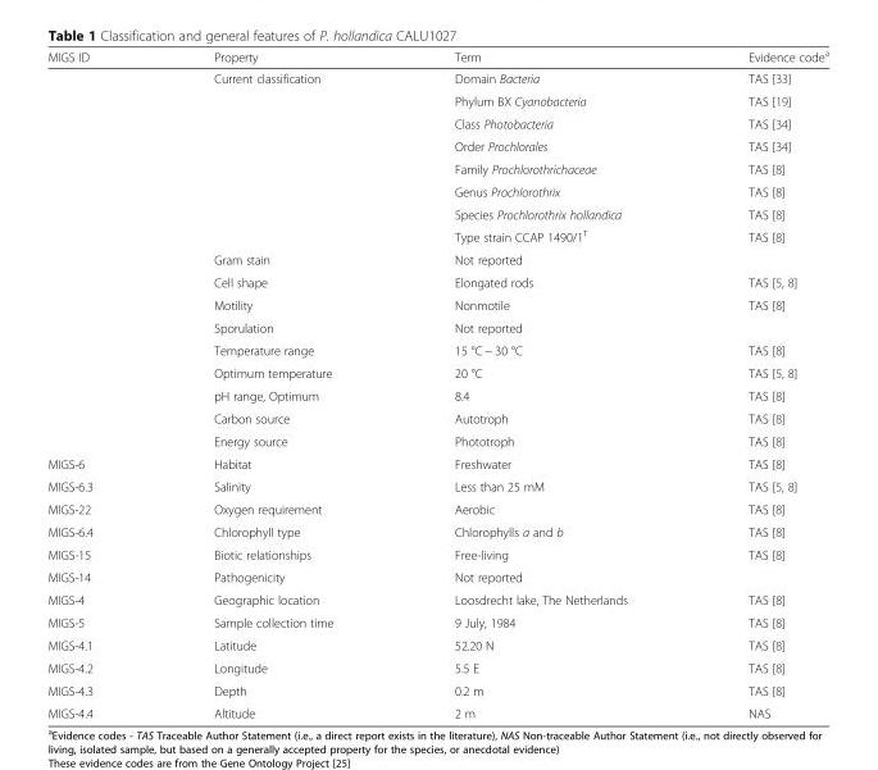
<table><thead><tr><td>MIGS ID</td><td>Property</td><td>Term</td><td>Evidence code<sup>a</sup></td></tr></thead><tbody><tr><td></td><td rowspan="8">Current classification</td><td>Domain Bacteria</td><td>TAS [33]</td></tr><tr><td></td><td>Phylum BX Cyanobacteria</td><td>TAS [19]</td></tr><tr><td></td><td>Class Photobacteria</td><td>TAS [34]</td></tr><tr><td></td><td>Order Prochlorales</td><td>TAS [34]</td></tr><tr><td></td><td>Family Prochlorothrichaceae</td><td>TAS [8]</td></tr><tr><td></td><td>Genus Prochlorothrix</td><td>TAS [8]</td></tr><tr><td></td><td>Species Prochlorothrix hollandica</td><td>TAS [8]</td></tr><tr><td></td><td>Type strain CCAP 1490/1<sup>T</sup></td><td>TAS [8]</td></tr><tr><td></td><td>Gram stain</td><td>Not reported</td><td></td></tr><tr><td></td><td>Cell shape</td><td>Elongated rods</td><td>TAS [5, 8]</td></tr><tr><td></td><td>Motility</td><td>Nonmotile</td><td>TAS [8]</td></tr><tr><td></td><td>Sporulation</td><td>Not reported</td><td></td></tr><tr><td></td><td>Temperature range</td><td>15 °C − 30 °C</td><td>TAS [8]</td></tr><tr><td></td><td>Optimum temperature</td><td>20 °C</td><td>TAS [5, 8]</td></tr><tr><td></td><td>pH range, Optimum</td><td>8.4</td><td>TAS [8]</td></tr><tr><td></td><td>Carbon source</td><td>Autotroph</td><td>TAS [8]</td></tr><tr><td></td><td>Energy source</td><td>Phototroph</td><td>TAS [8]</td></tr><tr><td>MIGS-6</td><td>Habitat</td><td>Freshwater</td><td>TAS [8]</td></tr><tr><td>MIGS-6.3</td><td>Salinity</td><td>Less than 25 mM</td><td>TAS [5, 8]</td></tr><tr><td>MIGS-22</td><td>Oxygen requirement</td><td>Aerobic</td><td>TAS [8]</td></tr><tr><td>MIGS-6.4</td><td>Chlorophyll type</td><td>Chlorophylls a and b</td><td>TAS [8]</td></tr><tr><td>MIGS-15</td><td>Biotic relationships</td><td>Free-living</td><td>TAS [8]</td></tr><tr><td>MIGS-14</td><td>Pathogenicity</td><td>Not reported</td><td></td></tr><tr><td>MIGS-4</td><td>Geographic location</td><td>Loosdrecht lake, The Netherlands</td><td>TAS [8]</td></tr><tr><td>MIGS-5</td><td>Sample collection time</td><td>9 July, 1984</td><td>TAS [8]</td></tr><tr><td>MIGS-4.1</td><td>Latitude</td><td>52.20 N</td><td>TAS [8]</td></tr><tr><td>MIGS-4.2</td><td>Longitude</td><td>5.5 E</td><td>TAS [8]</td></tr><tr><td>MIGS-4.3</td><td>Depth</td><td>0.2 m</td><td>TAS [8]</td></tr><tr><td>MIGS-4.4</td><td>Altitude</td><td>2 m</td><td>NAS</td></tr></tbody></table>